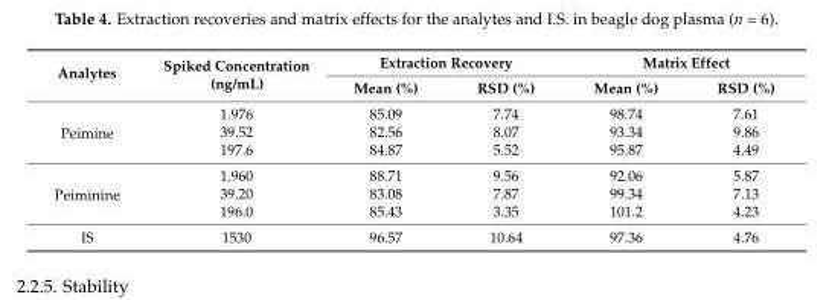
<table><thead><tr><td rowspan="2">Analytes</td><td rowspan="2">Spiked Concentration (ng/mL)</td><td colspan="2">Extraction Recovery</td><td colspan="2">Matrix Effect</td></tr><tr><td>Mean (%)</td><td>RSD (%)</td><td>Mean (%)</td><td>RSD (%)</td></tr></thead><tbody><tr><td rowspan="3">Peimine</td><td>1.976</td><td>85.09</td><td>7.74</td><td>98.74</td><td>7.61</td></tr><tr><td>39.52</td><td>82.56</td><td>8.07</td><td>93.34</td><td>9.86</td></tr><tr><td>197.6</td><td>84.87</td><td>5.52</td><td>95.87</td><td>4.49</td></tr><tr><td rowspan="3">Peiminine</td><td>1.960</td><td>88.71</td><td>9.56</td><td>92.06</td><td>5.87</td></tr><tr><td>39.20</td><td>83.08</td><td>7.87</td><td>99.34</td><td>7.13</td></tr><tr><td>196.0</td><td>85.43</td><td>3.35</td><td>101.2</td><td>4.23</td></tr><tr><td>IS</td><td>1530</td><td>96.57</td><td>10.64</td><td>97.36</td><td>4.76</td></tr></tbody></table>